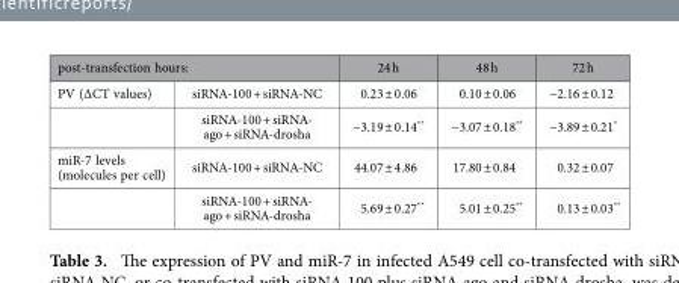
<table><thead><tr><td colspan="2">post-transfection hours:</td><td rowspan="2">24 h 0.23 ± 0.06</td><td rowspan="2">48 h 0.10 ± 0.06</td><td rowspan="2">72 h −2.16 ± 0.12</td></tr><tr><td>PV (∆CT values)</td><td>siRNA-100 + siRNA-NC</td></tr></thead><tbody><tr><td></td><td>siRNA-100 + siRNA- ago + siRNA-drosha</td><td>−3.19 ± 0.14**</td><td>−3.07 ± 0.18**</td><td>−3.89 ± 0.21*</td></tr><tr><td rowspan="2">miR-7 levels (molecules per cell)</td><td>siRNA-100 + siRNA-NC</td><td>44.07 ± 4.86</td><td>17.80 ± 0.84</td><td>0.32 ± 0.07</td></tr><tr><td>siRNA-100 + siRNA- ago + siRNA-drosha</td><td>5.69 ± 0.27**</td><td>5.01 ± 0.25**</td><td>0.13 ± 0.03**</td></tr></tbody></table>